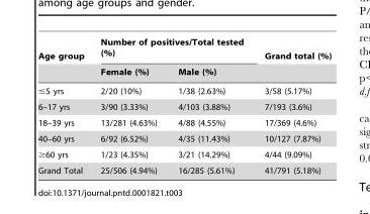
<table><thead><tr><td rowspan="2">Age group</td><td colspan="2">Number of positives/Total tested (%)</td><td rowspan="2">Grand total (%)</td></tr><tr><td>Female (%)</td><td>Male (%)</td></tr></thead><tbody><tr><td>≤5 yrs</td><td>2/20 (10%)</td><td>1/38 (2.63%)</td><td>3/58 (5.17%)</td></tr><tr><td>6–17 yrs</td><td>3/90 (3.33%)</td><td>4/103 (3.88%)</td><td>7/193 (3.6%)</td></tr><tr><td>18–39 yrs</td><td>13/281 (4.63%)</td><td>4/88 (4.55%)</td><td>17/369 (4.6%)</td></tr><tr><td>40–60 yrs</td><td>6/92 (6.52%)</td><td>4/35 (11.43%)</td><td>10/127 (7.87%)</td></tr><tr><td>≥60 yrs</td><td>1/23 (4.35%)</td><td>3/21 (14.29%)</td><td>4/44 (9.09%)</td></tr><tr><td>Grand Total</td><td>25/506 (4.94%)</td><td>16/285 (5.61%)</td><td>41/791 (5.18%)</td></tr></tbody></table>